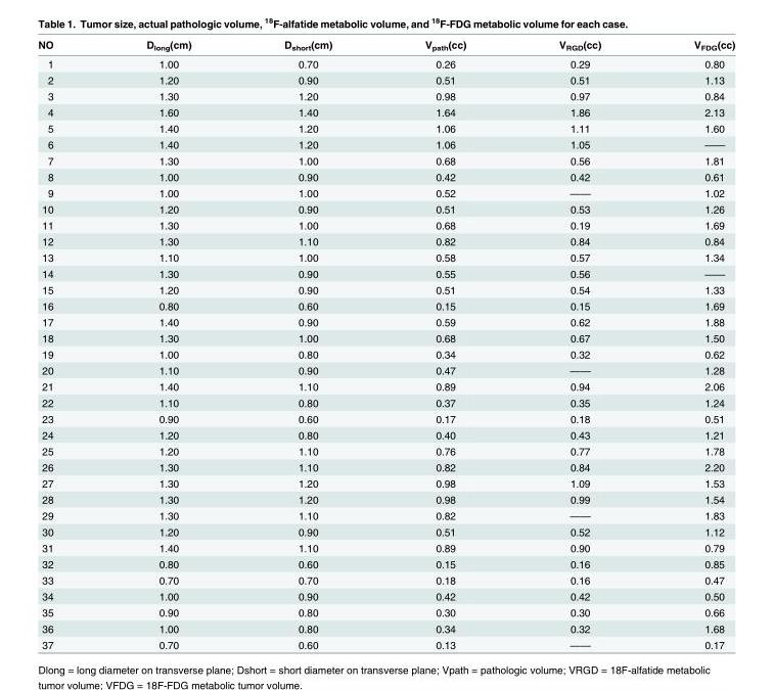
<table><thead><tr><td>NO</td><td>D<sub>long</sub>(cm)</td><td>D<sub>short</sub>(cm)</td><td>V<sub>path</sub>(cc)</td><td>V<sub>RGD</sub>(cc)</td><td>V<sub>FDG</sub>(cc)</td></tr></thead><tbody><tr><td>1</td><td>1.00</td><td>0.70</td><td>0.26</td><td>0.29</td><td>0.80</td></tr><tr><td>2</td><td>1.20</td><td>0.90</td><td>0.51</td><td>0.51</td><td>1.13</td></tr><tr><td>3</td><td>1.30</td><td>1.20</td><td>0.98</td><td>0.97</td><td>0.84</td></tr><tr><td>4</td><td>1.60</td><td>1.40</td><td>1.64</td><td>1.86</td><td>2.13</td></tr><tr><td>5</td><td>1.40</td><td>1.20</td><td>1.06</td><td>1.11</td><td>1.60</td></tr><tr><td>6</td><td>1.40</td><td>1.20</td><td>1.06</td><td>1.05</td><td>——</td></tr><tr><td>7</td><td>1.30</td><td>1.00</td><td>0.68</td><td>0.56</td><td>1.81</td></tr><tr><td>8</td><td>1.00</td><td>0.90</td><td>0.42</td><td>0.42</td><td>0.61</td></tr><tr><td>9</td><td>1.00</td><td>1.00</td><td>0.52</td><td>——</td><td>1.02</td></tr><tr><td>10</td><td>1.20</td><td>0.90</td><td>0.51</td><td>0.53</td><td>1.26</td></tr><tr><td>11</td><td>1.30</td><td>1.00</td><td>0.68</td><td>0.19</td><td>1.69</td></tr><tr><td>12</td><td>1.30</td><td>1.10</td><td>0.82</td><td>0.84</td><td>0.84</td></tr><tr><td>13</td><td>1.10</td><td>1.00</td><td>0.58</td><td>0.57</td><td>1.34</td></tr><tr><td>14</td><td>1.30</td><td>0.90</td><td>0.55</td><td>0.56</td><td>——</td></tr><tr><td>15</td><td>1.20</td><td>0.90</td><td>0.51</td><td>0.54</td><td>1.33</td></tr><tr><td>16</td><td>0.80</td><td>0.60</td><td>0.15</td><td>0.15</td><td>1.69</td></tr><tr><td>17</td><td>1.40</td><td>0.90</td><td>0.59</td><td>0.62</td><td>1.88</td></tr><tr><td>18</td><td>1.30</td><td>1.00</td><td>0.68</td><td>0.67</td><td>1.50</td></tr><tr><td>19</td><td>1.00</td><td>0.80</td><td>0.34</td><td>0.32</td><td>0.62</td></tr><tr><td>20</td><td>1.10</td><td>0.90</td><td>0.47</td><td>——</td><td>1.28</td></tr><tr><td>21</td><td>1.40</td><td>1.10</td><td>0.89</td><td>0.94</td><td>2.06</td></tr><tr><td>22</td><td>1.10</td><td>0.80</td><td>0.37</td><td>0.35</td><td>1.24</td></tr><tr><td>23</td><td>0.90</td><td>0.60</td><td>0.17</td><td>0.18</td><td>0.51</td></tr><tr><td>24</td><td>1.20</td><td>0.80</td><td>0.40</td><td>0.43</td><td>1.21</td></tr><tr><td>25</td><td>1.20</td><td>1.10</td><td>0.76</td><td>0.77</td><td>1.78</td></tr><tr><td>26</td><td>1.30</td><td>1.10</td><td>0.82</td><td>0.84</td><td>2.20</td></tr><tr><td>27</td><td>1.30</td><td>1.20</td><td>0.98</td><td>1.09</td><td>1.53</td></tr><tr><td>28</td><td>1.30</td><td>1.20</td><td>0.98</td><td>0.99</td><td>1.54</td></tr><tr><td>29</td><td>1.30</td><td>1.10</td><td>0.82</td><td>——</td><td>1.83</td></tr><tr><td>30</td><td>1.20</td><td>0.90</td><td>0.51</td><td>0.52</td><td>1.12</td></tr><tr><td>31</td><td>1.40</td><td>1.10</td><td>0.89</td><td>0.90</td><td>0.79</td></tr><tr><td>32</td><td>0.80</td><td>0.60</td><td>0.15</td><td>0.16</td><td>0.85</td></tr><tr><td>33</td><td>0.70</td><td>0.70</td><td>0.18</td><td>0.16</td><td>0.47</td></tr><tr><td>34</td><td>1.00</td><td>0.90</td><td>0.42</td><td>0.42</td><td>0.50</td></tr><tr><td>35</td><td>0.90</td><td>0.80</td><td>0.30</td><td>0.30</td><td>0.66</td></tr><tr><td>36</td><td>1.00</td><td>0.80</td><td>0.34</td><td>0.32</td><td>1.68</td></tr><tr><td>37</td><td>0.70</td><td>0.60</td><td>0.13</td><td>——</td><td>0.17</td></tr></tbody></table>